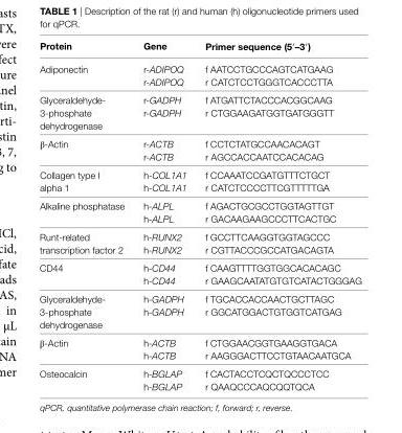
<table><thead><tr><td>Protein</td><td>gene</td><td>Primer sequence (5′–3′)</td></tr></thead><tbody><tr><td>Adiponectin</td><td>r-ADIPOQ r-ADIPOQ</td><td>f AATCCTGCCCAGTCATGAAG r CATCTCCTGGGTCACCCTTA</td></tr><tr><td>Glyceraldehyde- 3-phosphate dehydrogenase</td><td>r-GADPH r-GADPH</td><td>f ATGATTCTACCCACGGCAAG r CTGGAAGATGGTGATGGGTT</td></tr><tr><td>β-Actin</td><td>r-ACTB r-ACTB</td><td>f CCTCTATGCCAACACAGT r AGCCACCAATCCACACAG</td></tr><tr><td>Collagen type I alpha 1</td><td>h-COL1A1 h-COL1A1</td><td>f CCAAATCCGATGTTTCTGCT r CATCTCCCCTTCGTTTTTGA</td></tr><tr><td>Alkaline phosphatase</td><td>h-ALPL h-ALPL</td><td>f AGACTGCGCCTGGTAGTTGT r GACAAGAAGCCCTTCACTGC</td></tr><tr><td>Runt-related transcription factor 2</td><td>h-RUNX2 h-RUNX2</td><td>f GCCTTCAAGGTGGTAGCCC r CGTTACCCGCCATGACAGTA</td></tr><tr><td>CD44</td><td>h-CD44 h-CD44</td><td>f CAAGTTTTGGTGGCACACAGC r GAAGCAATATGTGTCATACTGGGAG</td></tr><tr><td>Glyceraldehyde- 3-phosphate dehydrogenase</td><td>h-GADPH h-GADPH</td><td>f TGCACCACCAACTGCTTAGC r GGCATGGACTGTGGTCATGAG</td></tr><tr><td>β-Actin</td><td>h-ACTB h-ACTB</td><td>f CTGGAACGGTGAAGGTGACA r AAGGGACTTCCTGTAACAATGCA</td></tr><tr><td>Osteocalcin</td><td>h-BGLAP h-BGLAP</td><td>f CACTACCTCQCTQCCCTCC r QAAQCCCAQCQQTQCA</td></tr></tbody></table>